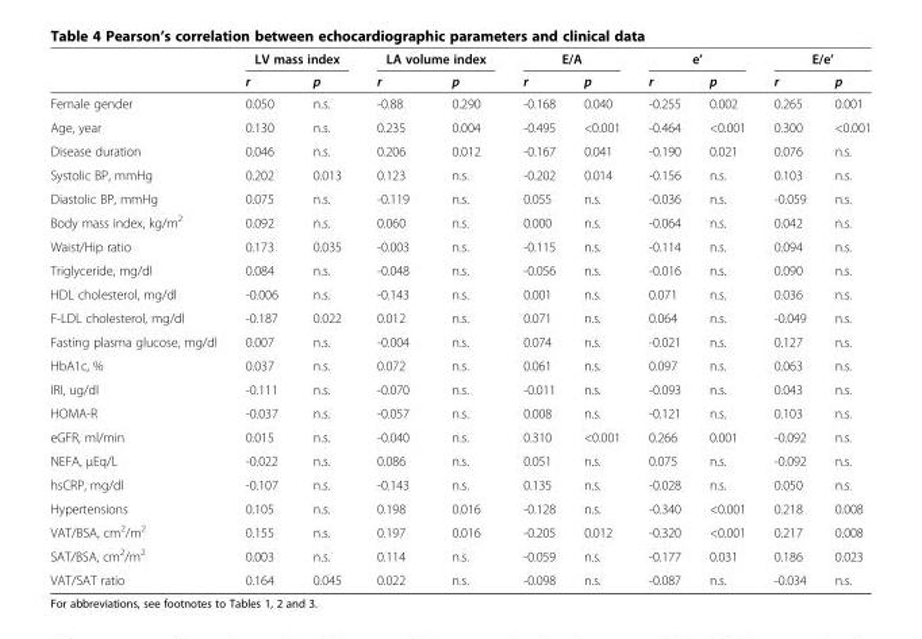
<table><thead><tr><td rowspan="2"></td><td colspan="2">LV mass index</td><td colspan="2">LA volume index</td><td colspan="2">E/A</td><td colspan="2">e’</td><td colspan="2">E/e’</td></tr><tr><td>r</td><td>p</td><td>r</td><td>p</td><td>r</td><td>p</td><td>r</td><td>p</td><td>r</td><td>p</td></tr></thead><tbody><tr><td>Female gender</td><td>0.050</td><td>n.s.</td><td>-0.88</td><td>0.290</td><td>-0.168</td><td>0.040</td><td>-0.255</td><td>0.002</td><td>0.265</td><td>0.001</td></tr><tr><td>Age, year</td><td>0.130</td><td>n.s.</td><td>0.235</td><td>0.004</td><td>-0.495</td><td>&lt;0.001</td><td>-0.464</td><td>&lt;0.001</td><td>0.300</td><td>&lt;0.001</td></tr><tr><td>Disease duration</td><td>0.046</td><td>n.s.</td><td>0.206</td><td>0.012</td><td>-0.167</td><td>0.041</td><td>-0.190</td><td>0.021</td><td>0.076</td><td>n.s.</td></tr><tr><td>Systolic BP, mmHg</td><td>0.202</td><td>0.013</td><td>0.123</td><td>n.s.</td><td>-0.202</td><td>0.014</td><td>-0.156</td><td>n.s.</td><td>0.103</td><td>n.s.</td></tr><tr><td>Diastolic BP, mmHg</td><td>0.075</td><td>n.s.</td><td>-0.119</td><td>n.s.</td><td>0.055</td><td>n.s.</td><td>-0.036</td><td>n.s.</td><td>-0.059</td><td>n.s.</td></tr><tr><td>Body mass index, kg/m<sup>2</sup></td><td>0.092</td><td>n.s.</td><td>0.060</td><td>n.s.</td><td>0.000</td><td>n.s.</td><td>-0.064</td><td>n.s.</td><td>0.042</td><td>n.s.</td></tr><tr><td>Waist/Hip ratio</td><td>0.173</td><td>0.035</td><td>-0.003</td><td>n.s.</td><td>-0.115</td><td>n.s.</td><td>-0.114</td><td>n.s.</td><td>0.094</td><td>n.s.</td></tr><tr><td>Triglyceride, mg/dl</td><td>0.084</td><td>n.s.</td><td>-0.048</td><td>n.s.</td><td>-0.056</td><td>n.s.</td><td>-0.016</td><td>n.s.</td><td>0.090</td><td>n.s.</td></tr><tr><td>HDL cholesterol, mg/dl</td><td>-0.006</td><td>n.s.</td><td>-0.143</td><td>n.s.</td><td>0.001</td><td>n.s.</td><td>0.071</td><td>n.s.</td><td>0.036</td><td>n.s.</td></tr><tr><td>F-LDL cholesterol, mg/dl</td><td>-0.187</td><td>0.022</td><td>0.012</td><td>n.s.</td><td>0.071</td><td>n.s.</td><td>0.064</td><td>n.s.</td><td>-0.049</td><td>n.s.</td></tr><tr><td>Fasting plasma glucose, mg/dl</td><td>0.007</td><td>n.s.</td><td>-0.004</td><td>n.s.</td><td>0.074</td><td>n.s.</td><td>-0.021</td><td>n.s.</td><td>0.127</td><td>n.s.</td></tr><tr><td>HbA1c, %</td><td>0.037</td><td>n.s.</td><td>0.072</td><td>n.s.</td><td>0.061</td><td>n.s.</td><td>0.097</td><td>n.s.</td><td>0.063</td><td>n.s.</td></tr><tr><td>IRI, ug/dl</td><td>-0.111</td><td>n.s.</td><td>-0.070</td><td>n.s.</td><td>-0.011</td><td>n.s.</td><td>-0.093</td><td>n.s.</td><td>0.043</td><td>n.s.</td></tr><tr><td>HOMA-R</td><td>-0.037</td><td>n.s.</td><td>-0.057</td><td>n.s.</td><td>0.008</td><td>n.s.</td><td>-0.121</td><td>n.s.</td><td>0.103</td><td>n.s.</td></tr><tr><td>eGFR, ml/min</td><td>0.015</td><td>n.s.</td><td>-0.040</td><td>n.s.</td><td>0.310</td><td>&lt;0.001</td><td>0.266</td><td>0.001</td><td>-0.092</td><td>n.s.</td></tr><tr><td>NEFA, μEq/L</td><td>-0.022</td><td>n.s.</td><td>0.086</td><td>n.s.</td><td>0.051</td><td>n.s.</td><td>0.075</td><td>n.s.</td><td>-0.092</td><td>n.s.</td></tr><tr><td>hsCRP, mg/dl</td><td>-0.107</td><td>n.s.</td><td>-0.143</td><td>n.s.</td><td>0.135</td><td>n.s.</td><td>-0.028</td><td>n.s.</td><td>0.050</td><td>n.s.</td></tr><tr><td>Hypertensions</td><td>0.105</td><td>n.s.</td><td>0.198</td><td>0.016</td><td>-0.128</td><td>n.s.</td><td>-0.340</td><td>&lt;0.001</td><td>0.218</td><td>0.008</td></tr><tr><td>VAT/BSA, cm<sup>2</sup>/m<sup>2</sup></td><td>0.155</td><td>n.s.</td><td>0.197</td><td>0.016</td><td>-0.205</td><td>0.012</td><td>-0.320</td><td>&lt;0.001</td><td>0.217</td><td>0.008</td></tr><tr><td>SAT/BSA, cm<sup>2</sup>/m<sup>2</sup></td><td>0.003</td><td>n.s.</td><td>0.114</td><td>n.s.</td><td>-0.059</td><td>n.s.</td><td>-0.177</td><td>0.031</td><td>0.186</td><td>0.023</td></tr><tr><td>VAT/SAT ratio</td><td>0.164</td><td>0.045</td><td>0.022</td><td>n.s.</td><td>-0.098</td><td>n.s.</td><td>-0.087</td><td>n.s.</td><td>-0.034</td><td>n.s.</td></tr></tbody></table>